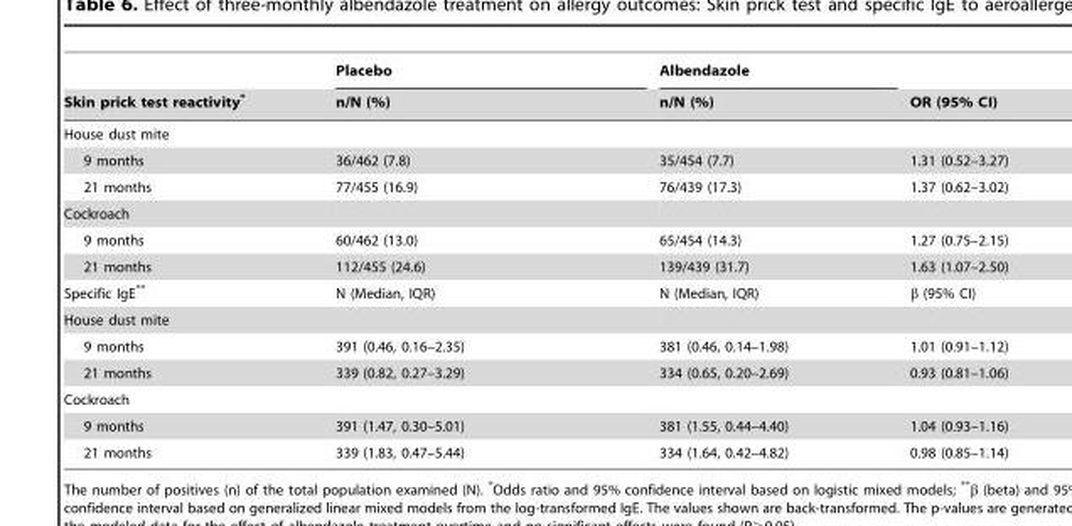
<table><thead><tr><td rowspan="2">Skin prick test reactivity*</td><td rowspan="2">Placebo n/N (%)</td><td rowspan="2">Albendazole n/N (%)</td><td rowspan="2">OR (95% CI)</td></tr><tr></tr></thead><tbody><tr><td colspan="4">House dust mite</td></tr><tr><td>9 months</td><td>36/462 (7.8)</td><td>35/454 (7.7)</td><td>1.31 (0.52–3.27)</td></tr><tr><td>21 months</td><td>77/455 (16.9)</td><td>76/439 (17.3)</td><td>1.37 (0.62–3.02)</td></tr><tr><td colspan="4">Cockroach</td></tr><tr><td>9 months</td><td>60/462 (13.0)</td><td>65/454 (14.3)</td><td>1.27 (0.75–2.15)</td></tr><tr><td>21 months</td><td>112/455 (24.6)</td><td>139/439 (31.7)</td><td>1.63 (1.07–2.50)</td></tr><tr><td>Specific IgE**</td><td>N (Median, IQR)</td><td>N (Median, IQR)</td><td>β (95% CI)</td></tr><tr><td colspan="4">House dust mite</td></tr><tr><td>9 months</td><td>391 (0.46, 0.16–2.35)</td><td>381 (0.46, 0.14–1.98)</td><td>1.01 (0.91–1.12)</td></tr><tr><td>21 months</td><td>339 (0.82, 0.27–3.29)</td><td>334 (0.65, 0.20–2.69)</td><td>0.93 (0.81–1.06)</td></tr><tr><td colspan="4">Cockroach</td></tr><tr><td>9 months</td><td>391 (1.47, 0.30–5.01)</td><td>381 (1.55, 0.44–4.40)</td><td>1.04 (0.93–1.16)</td></tr><tr><td>21 months</td><td>339 (1.83, 0.47–5.44)</td><td>334 (1.64, 0.42–4.82)</td><td>0.98 (0.85–1.14)</td></tr></tbody></table>